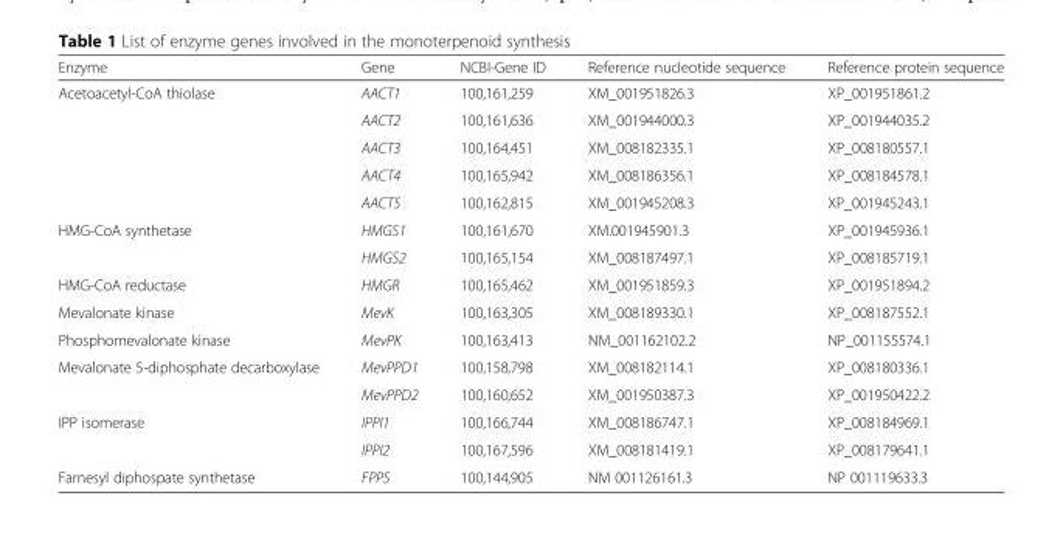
<table><thead><tr><td>Enzyme</td><td>Gene</td><td>NCBI-Gene ID</td><td>Reference nucleotide sequence</td><td>Reference protein sequence</td></tr></thead><tbody><tr><td rowspan="5">Acetoacetyl-CoA thiolase</td><td>AACT1</td><td>100,161,259</td><td>XM_001951826.3</td><td>XP_001951861.2</td></tr><tr><td>AACT2</td><td>100,161,636</td><td>XM_001944000.3</td><td>XP_001944035.2</td></tr><tr><td>AACT3</td><td>100,164,451</td><td>XM_008182335.1</td><td>XP_008180557.1</td></tr><tr><td>AACT4</td><td>100,165,942</td><td>XM_008186356.1</td><td>XP_008184578.1</td></tr><tr><td>AACT5</td><td>100,162,815</td><td>XM_001945208.3</td><td>XP_001945243.1</td></tr><tr><td rowspan="2">HMG-CoA synthetase</td><td>HMGS1</td><td>100,161,670</td><td>XM.001945901.3</td><td>XP_001945936.1</td></tr><tr><td>HMGS2</td><td>100,165,154</td><td>XM_008187497.1</td><td>XP_008185719.1</td></tr><tr><td>HMG-CoA reductase</td><td>HMGR</td><td>100,165,462</td><td>XM_001951859.3</td><td>XP_001951894.2</td></tr><tr><td>Mevalonate kinase</td><td>MevK</td><td>100,163,305</td><td>XM_008189330.1</td><td>XP_008187552.1</td></tr><tr><td>Phosphomevalonate kinase</td><td>MevPK</td><td>100,163,413</td><td>NM_001162102.2</td><td>NP_001155574.1</td></tr><tr><td rowspan="2">Mevalonate 5-diphosphate decarboxylase</td><td>MevPPD1</td><td>100,158,798</td><td>XM_008182114.1</td><td>XP_008180336.1</td></tr><tr><td>MevPPD2</td><td>100,160,652</td><td>XM_001950387.3</td><td>XP_001950422.2</td></tr><tr><td rowspan="2">IPP isomerase</td><td>IPPI1</td><td>100,166,744</td><td>XM_008186747.1</td><td>XP_008184969.1</td></tr><tr><td>IPPI2</td><td>100,167,596</td><td>XM_008181419.1</td><td>XP_008179641.1</td></tr><tr><td>Farnesyl diphospate synthetase</td><td>FPPS</td><td>100,144,905</td><td>NM 001126161.3</td><td>NP 001119633.3</td></tr></tbody></table>